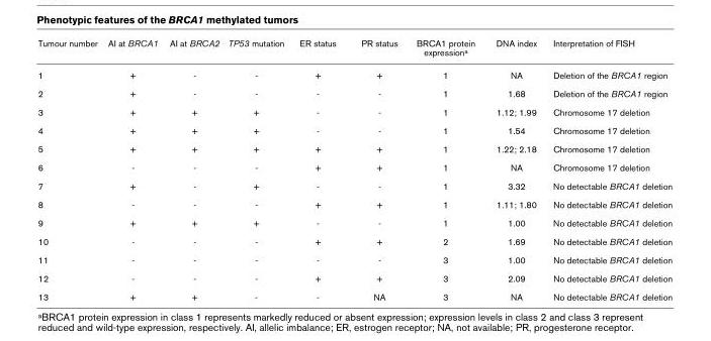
<table><thead><tr><td>Tumour number</td><td>AI at BRCA1</td><td>AI at BRCA2</td><td>TP53 mutation</td><td>ER status</td><td>PR status</td><td>BRCA1 protein expressiona</td><td>DNA index</td><td>Interpretation of FISH</td></tr></thead><tbody><tr><td>1</td><td>+</td><td>-</td><td>-</td><td>+</td><td>+</td><td>1</td><td>NA</td><td>Deletion of the BRCA1 region</td></tr><tr><td>2</td><td>+</td><td>-</td><td>-</td><td>-</td><td>-</td><td>1</td><td>1.68</td><td>Deletion of the BRCA1 region</td></tr><tr><td>3</td><td>+</td><td>+</td><td>+</td><td>-</td><td>-</td><td>1</td><td>1.12; 1.99</td><td>Chromosome 17 deletion</td></tr><tr><td>4</td><td>+</td><td>+</td><td>+</td><td>-</td><td>-</td><td>1</td><td>1.54</td><td>Chromosome 17 deletion</td></tr><tr><td>5</td><td>+</td><td>+</td><td>+</td><td>+</td><td>+</td><td>1</td><td>1.22; 2.18</td><td>Chromosome 17 deletion</td></tr><tr><td>6</td><td>-</td><td>-</td><td>-</td><td>+</td><td>+</td><td>1</td><td>NA</td><td>Chromosome 17 deletion</td></tr><tr><td>7</td><td>+</td><td>-</td><td>+</td><td>-</td><td>-</td><td>1</td><td>3.32</td><td>No detectable BRCA1 deletion</td></tr><tr><td>8</td><td>-</td><td>-</td><td>-</td><td>+</td><td>+</td><td>1</td><td>1.11; 1.80</td><td>No detectable BRCA1 deletion</td></tr><tr><td>9</td><td>+</td><td>+</td><td>+</td><td>-</td><td>-</td><td>1</td><td>1.00</td><td>No detectable BRCA1 deletion</td></tr><tr><td>10</td><td>-</td><td>-</td><td>-</td><td>+</td><td>+</td><td>2</td><td>1.69</td><td>No detectable BRCA1 deletion</td></tr><tr><td>11</td><td>-</td><td>-</td><td>-</td><td>-</td><td>-</td><td>3</td><td>1.00</td><td>No detectable BRCA1 deletion</td></tr><tr><td>12</td><td>-</td><td>-</td><td>-</td><td>+</td><td>+</td><td>3</td><td>2.09</td><td>No detectable BRCA1 deletion</td></tr><tr><td>13</td><td>+</td><td>+</td><td>-</td><td>-</td><td>NA</td><td>3</td><td>NA</td><td>No detectable BRCA1 deletion</td></tr></tbody></table>